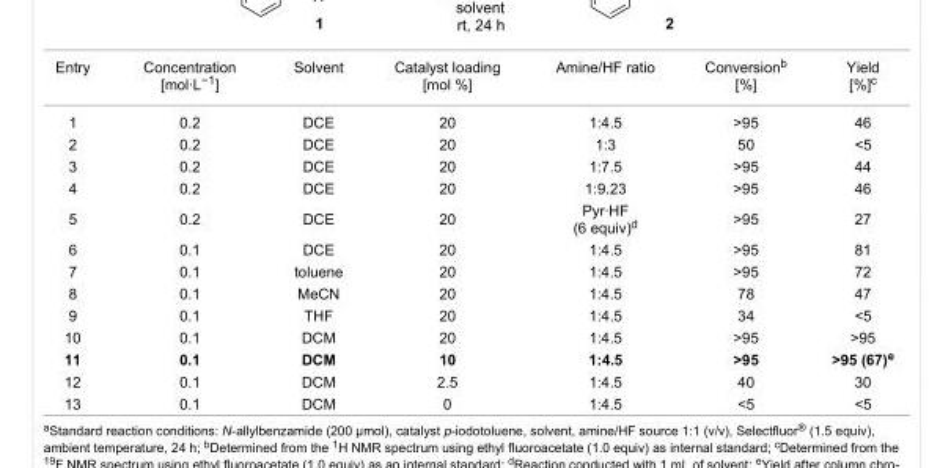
<table><tbody><tr><td>Entry</td><td>Concentration [mol·L<sup>−1</sup>]</td><td>Solvent</td><td>Catalyst loading [mol %]</td><td>Amine/HF ratio</td><td>Conversion<sup>b</sup> [%]</td><td>Yield [%]<sup>c</sup></td></tr><tr><td>1</td><td>0.2</td><td>DCE</td><td>20</td><td>1:4.5</td><td>&gt;95</td><td>46</td></tr><tr><td>2</td><td>0.2</td><td>DCE</td><td>20</td><td>1:3</td><td>50</td><td>&lt;5</td></tr><tr><td>3</td><td>0.2</td><td>DCE</td><td>20</td><td>1:7.5</td><td>&gt;95</td><td>44</td></tr><tr><td>4</td><td>0.2</td><td>DCE</td><td>20</td><td>1:9.23</td><td>&gt;95</td><td>46</td></tr><tr><td>5</td><td>0.2</td><td>DCE</td><td>20</td><td>Pyr·HF (6 equiv)<sup>d</sup></td><td>&gt;95</td><td>27</td></tr><tr><td>6</td><td>0.1</td><td>DCE</td><td>20</td><td>1:4.5</td><td>&gt;95</td><td>81</td></tr><tr><td>7</td><td>0.1</td><td>toluene</td><td>20</td><td>1:4.5</td><td>&gt;95</td><td>72</td></tr><tr><td>8</td><td>0.1</td><td>MeCN</td><td>20</td><td>1:4.5</td><td>78</td><td>47</td></tr><tr><td>9</td><td>0.1</td><td>THF</td><td>20</td><td>1:4.5</td><td>34</td><td>&lt;5</td></tr><tr><td>10</td><td>0.1</td><td>DCM</td><td>20</td><td>1:4.5</td><td>&gt;95</td><td>&gt;95</td></tr><tr><td>11</td><td>0.1</td><td>DCM</td><td>10</td><td>1:4.5</td><td>&gt;95</td><td>&gt;95 (67)<sup>e</sup></td></tr><tr><td>12</td><td>0.1</td><td>DCM</td><td>2.5</td><td>1:4.5</td><td>40</td><td>30</td></tr><tr><td>13</td><td>0.1</td><td>DCM</td><td>0</td><td>1:4.5</td><td>&lt;5</td><td>&lt;5</td></tr></tbody></table>